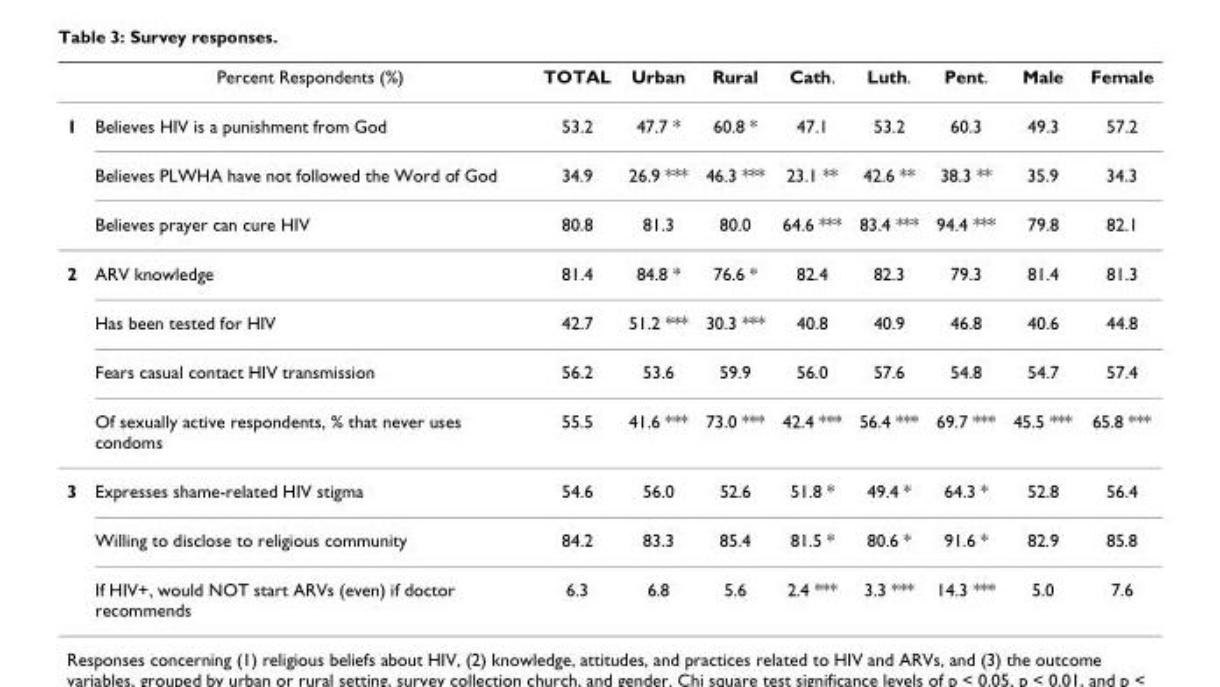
<table><thead><tr><td></td><td>Percent Respondents (%)</td><td>TOTAL</td><td>Urban</td><td>Rural</td><td>Cath.</td><td>Luth.</td><td>Pent.</td><td>Male</td><td>Female</td></tr></thead><tbody><tr><td rowspan="3">1</td><td>Believes HIV is a punishment from God</td><td>53.2</td><td>47.7 *</td><td>60.8 *</td><td>47.1</td><td>53.2</td><td>60.3</td><td>49.3</td><td>57.2</td></tr><tr><td>Believes PLWHA have not followed the Word of God</td><td>34.9</td><td>26.9 ***</td><td>46.3 ***</td><td>23.1 **</td><td>42.6 **</td><td>38.3 **</td><td>35.9</td><td>34.3</td></tr><tr><td>Believes prayer can cure HIV</td><td>80.8</td><td>81.3</td><td>80.0</td><td>64.6 ***</td><td>83.4 ***</td><td>94.4 ***</td><td>79.8</td><td>82.1</td></tr><tr><td rowspan="4">2</td><td>ARV knowledge</td><td>81.4</td><td>84.8 *</td><td>76.6 *</td><td>82.4</td><td>82.3</td><td>79.3</td><td>81.4</td><td>81.3</td></tr><tr><td>Has been tested for HIV</td><td>42.7</td><td>51.2 ***</td><td>30.3 ***</td><td>40.8</td><td>40.9</td><td>46.8</td><td>40.6</td><td>44.8</td></tr><tr><td>Fears casual contact HIV transmission</td><td>56.2</td><td>53.6</td><td>59.9</td><td>56.0</td><td>57.6</td><td>54.8</td><td>54.7</td><td>57.4</td></tr><tr><td>Of sexually active respondents, % that never uses condoms</td><td>55.5</td><td>41.6 ***</td><td>73.0 ***</td><td>42.4 ***</td><td>56.4 ***</td><td>69.7 ***</td><td>45.5 ***</td><td>65.8 ***</td></tr><tr><td rowspan="3">3</td><td>Expresses shame-related HIV stigma</td><td>54.6</td><td>56.0</td><td>52.6</td><td>51.8 *</td><td>49.4 *</td><td>64.3 *</td><td>52.8</td><td>56.4</td></tr><tr><td>Willing to disclose to religious community</td><td>84.2</td><td>83.3</td><td>85.4</td><td>81.5 *</td><td>80.6 *</td><td>91.6 *</td><td>82.9</td><td>85.8</td></tr><tr><td>If HIV+, would NOT start ARVs (even) if doctor recommends</td><td>6.3</td><td>6.8</td><td>5.6</td><td>2.4 ***</td><td>3.3 ***</td><td>14.3 ***</td><td>5.0</td><td>7.6</td></tr></tbody></table>